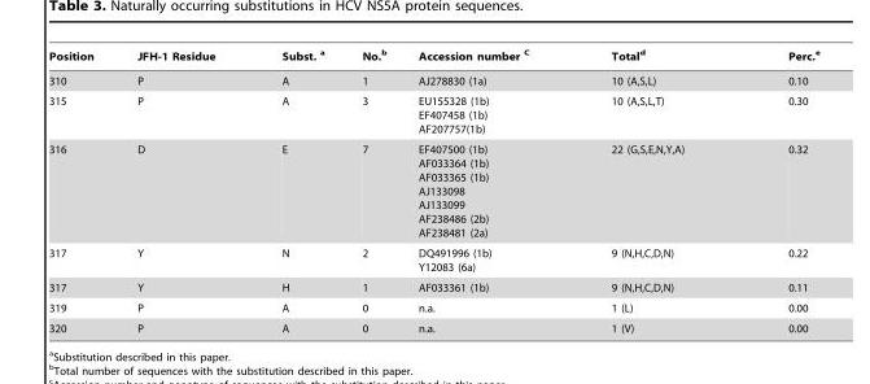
<table><thead><tr><td>Position</td><td>JFH-1 Residue</td><td>Subst. a</td><td>No.<sup>b</sup></td><td>Accession number <sup>C</sup></td><td>Total<sup>d</sup></td><td>Perc.<sup>e</sup></td></tr></thead><tbody><tr><td>310</td><td>P</td><td>A</td><td>1</td><td>AJ278830 (1a)</td><td>10 (A,S,L)</td><td>0.10</td></tr><tr><td>315</td><td>P</td><td>A</td><td>3</td><td>EU155328 (1b) EF407458 (1b) AF207757(1b)</td><td>10 (A,S,L,T)</td><td>0.30</td></tr><tr><td>316</td><td>D</td><td>E</td><td>7</td><td>EF407500 (1b) AF033364 (1b) AF033365 (1b) AJ133098 AJ133099 AF238486 (2b) AF238481 (2a)</td><td>22 (G,S,E,N,Y,A)</td><td>0.32</td></tr><tr><td>317</td><td>Y</td><td>N</td><td>2</td><td>DQ491996 (1b) Y12083 (6a)</td><td>9 (N,H,C,D,N)</td><td>0.22</td></tr><tr><td>317</td><td>Y</td><td>H</td><td>1</td><td>AF033361 (1b)</td><td>9 (N,H,C,D,N)</td><td>0.11</td></tr><tr><td>319</td><td>P</td><td>A</td><td>0</td><td>n.a.</td><td>1 (L)</td><td>0.00</td></tr><tr><td>320</td><td>P</td><td>A</td><td>0</td><td>n.a.</td><td>1 (V)</td><td>0.00</td></tr></tbody></table>